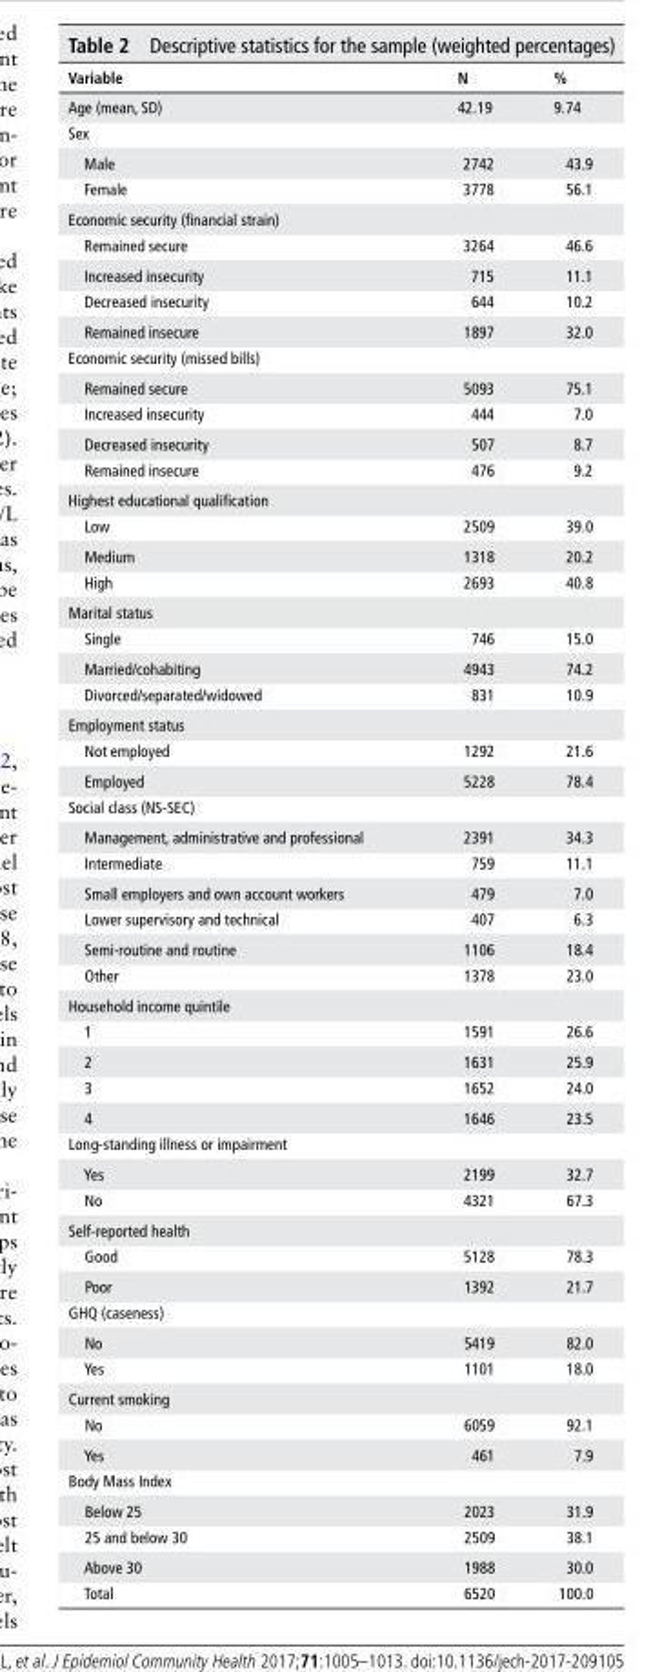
<table><thead><tr><td>Variable</td><td>n</td><td>%</td></tr></thead><tbody><tr><td>Age (mean, SD)</td><td>42.19</td><td>9.74</td></tr><tr><td colspan="3">Sex</td></tr><tr><td>Male</td><td>2742</td><td>43.9</td></tr><tr><td>Female</td><td>3778</td><td>56.1</td></tr><tr><td colspan="3">Economic security (financial strain)</td></tr><tr><td>Remained secure</td><td>3264</td><td>46.6</td></tr><tr><td>Increased insecurity</td><td>715</td><td>11.1</td></tr><tr><td>Decreased insecurity</td><td>644</td><td>10.2</td></tr><tr><td>Remained insecure</td><td>1897</td><td>32.0</td></tr><tr><td colspan="3">Economic security (missed bills)</td></tr><tr><td>Remained secure</td><td>5093</td><td>75.1</td></tr><tr><td>Increased insecurity</td><td>444</td><td>7.0</td></tr><tr><td>Decreased insecurity</td><td>507</td><td>8.7</td></tr><tr><td>Remained insecure</td><td>476</td><td>9.2</td></tr><tr><td colspan="3">Highest educational qualification</td></tr><tr><td>Low</td><td>2509</td><td>39.0</td></tr><tr><td>Medium</td><td>1318</td><td>20.2</td></tr><tr><td>High</td><td>2693</td><td>40.8</td></tr><tr><td colspan="3">Marital status</td></tr><tr><td>Single</td><td>746</td><td>15.0</td></tr><tr><td>Married/cohabiting</td><td>4943</td><td>74.2</td></tr><tr><td>Divorced/separated/widowed</td><td>831</td><td>10.9</td></tr><tr><td colspan="3">Employment status</td></tr><tr><td>Not employed</td><td>1292</td><td>21.6</td></tr><tr><td>Employed</td><td>5228</td><td>78.4</td></tr><tr><td colspan="3">Social class (NS-SEC)</td></tr><tr><td>Management, administrative and professional</td><td>2391</td><td>34.3</td></tr><tr><td>Intermediate</td><td>759</td><td>11.1</td></tr><tr><td>Small employers and own account workers</td><td>479</td><td>7.0</td></tr><tr><td>Lower supervisory and technical</td><td>407</td><td>6.3</td></tr><tr><td>Semi-routine and routine</td><td>1106</td><td>18.4</td></tr><tr><td>Other</td><td>1378</td><td>23.0</td></tr><tr><td colspan="3">Household income quintile</td></tr><tr><td>1</td><td>1591</td><td>26.6</td></tr><tr><td>2</td><td>1631</td><td>25.9</td></tr><tr><td>3</td><td>1652</td><td>24.0</td></tr><tr><td>4</td><td>1646</td><td>23.5</td></tr><tr><td colspan="3">Long-standing illness or impairment</td></tr><tr><td>Yes</td><td>2199</td><td>32.7</td></tr><tr><td>No</td><td>4321</td><td>67.3</td></tr><tr><td colspan="3">Self-reported health</td></tr><tr><td>Good</td><td>5128</td><td>78.3</td></tr><tr><td>Poor</td><td>1392</td><td>21.7</td></tr><tr><td colspan="3">GHQ (caseness)</td></tr><tr><td>No</td><td>5419</td><td>82.0</td></tr><tr><td>Yes</td><td>1101</td><td>18.0</td></tr><tr><td colspan="3">Current smoking</td></tr><tr><td>No</td><td>6059</td><td>92.1</td></tr><tr><td>Yes</td><td>461</td><td>7.9</td></tr><tr><td colspan="3">Body Mass Index</td></tr><tr><td>Below 25</td><td>2023</td><td>31.9</td></tr><tr><td>25 and below 30</td><td>2509</td><td>38.1</td></tr><tr><td>Above 30</td><td>1988</td><td>30.0</td></tr><tr><td>Total</td><td>6520</td><td>100.0</td></tr></tbody></table>